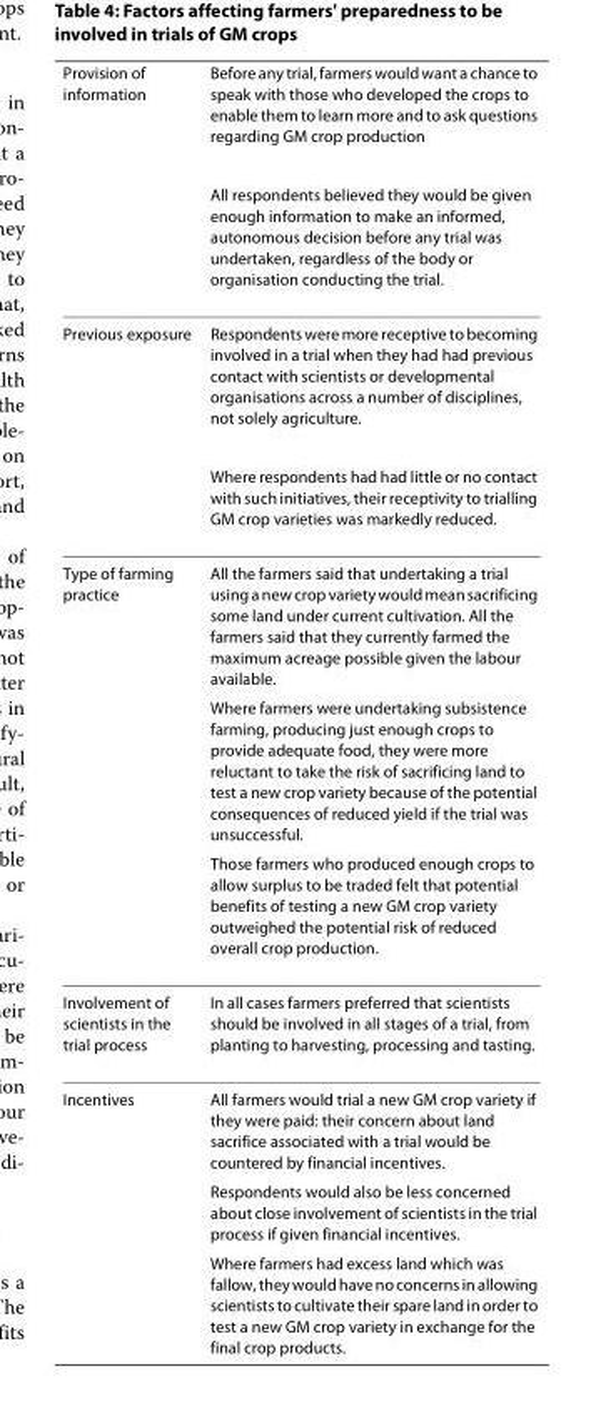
<table><thead><tr><td rowspan="2">Provision of information</td><td rowspan="2">Before any trial, farmers would want a chance to speak with those who developed the crops to enable them to learn more and to ask questions regarding GM crop production All respondents believed they would be given enough information to make an informed, autonomous decision before any trial was undertaken, regardless of the body or organisation conducting the trial.</td></tr><tr></tr></thead><tbody><tr><td rowspan="2">Previous exposure</td><td>Respondents were more receptive to becoming involved in a trial when they had had previous contact with scientists or developmental organisations across a number of disciplines, not solely agriculture.</td></tr><tr><td>Where respondents had had little or no contact with such initiatives, their receptivity to trialling GM crop varieties was markedly reduced.</td></tr><tr><td rowspan="3">Type of farming practice</td><td>All the farmers said that undertaking a trial using a new crop variety would mean sacrificing some land under current cultivation. All the farmers said that they currently farmed the maximum acreage possible given the labour available.</td></tr><tr><td>Where farmers were undertaking subsistence farming, producing just enough crops to provide adequate food, they were more reluctant to take the risk of sacrificing land to test a new crop variety because of the potential consequences of reduced yield if the trial was unsuccessful.</td></tr><tr><td>Those farmers who produced enough crops to allow surplus to be traded felt that potential benefits of testing a new GM crop variety outweighed the potential risk of reduced overall crop production.</td></tr><tr><td>Involvement of scientists in the trial process</td><td>In all cases farmers preferred that scientists should be involved in all stages of a trial, from planting to harvesting, processing and tasting.</td></tr><tr><td rowspan="3">Incentives</td><td>All farmers would trial a new GM crop variety if they were paid: their concern about land sacrifice associated with a trial would be countered by financial incentives.</td></tr><tr><td>Respondents would also be less concerned about close involvement of scientists in the trial process if given financial incentives.</td></tr><tr><td>Where farmers had excess land which was fallow, they would have no concerns in allowing scientists to cultivate their spare land in order to test a new GM crop variety in exchange for the final crop products.</td></tr></tbody></table>